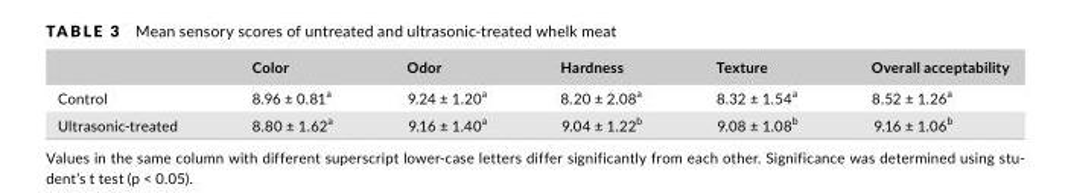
<table><thead><tr><td></td><td>Color</td><td>Odor</td><td>Hardness</td><td>Texture</td><td>Overall acceptability</td></tr></thead><tbody><tr><td>Control</td><td>8.96 ± 0.81<sup>a</sup></td><td>9.24 ± 1.20<sup>a</sup></td><td>8.20 ± 2.08<sup>a</sup></td><td>8.32 ± 1.54<sup>a</sup></td><td>8.52 ± 1.26<sup>a</sup></td></tr><tr><td>Ultrasonic- treated</td><td>8.80 ± 1.62<sup>a</sup></td><td>9.16 ± 1.40<sup>a</sup></td><td>9.04 ± 1.22<sup>b</sup></td><td>9.08 ± 1.08<sup>b</sup></td><td>9.16 ± 1.06<sup>b</sup></td></tr></tbody></table>